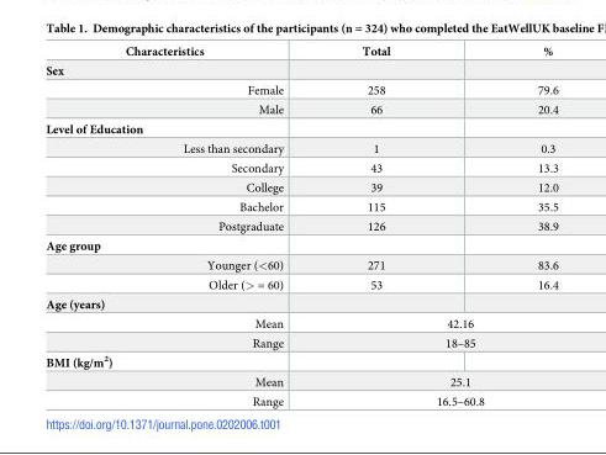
<table><thead><tr><td>Characteristics</td><td>Total</td><td>%</td></tr></thead><tbody><tr><td colspan="3">Sex</td></tr><tr><td>Female</td><td>258</td><td>79.6</td></tr><tr><td>Male</td><td>66</td><td>20.4</td></tr><tr><td colspan="3">Level of Education</td></tr><tr><td>Less than secondary</td><td>1</td><td>0.3</td></tr><tr><td>Secondary</td><td>43</td><td>13.3</td></tr><tr><td>College</td><td>39</td><td>12.0</td></tr><tr><td>Bachelor</td><td>115</td><td>35.5</td></tr><tr><td>Postgraduate</td><td>126</td><td>38.9</td></tr><tr><td colspan="3">Age group</td></tr><tr><td>Younger (&lt;60)</td><td>271</td><td>83.6</td></tr><tr><td>Older (&gt; = 60)</td><td>53</td><td>16.4</td></tr><tr><td colspan="3">Age (years)</td></tr><tr><td>Mean</td><td colspan="2">42.16</td></tr><tr><td>Range</td><td colspan="2">18–85</td></tr><tr><td colspan="3">BMI (kg/m<sup>2</sup>)</td></tr><tr><td>Mean</td><td colspan="2">25.1</td></tr><tr><td>Range</td><td colspan="2">16.5–60.8</td></tr></tbody></table>